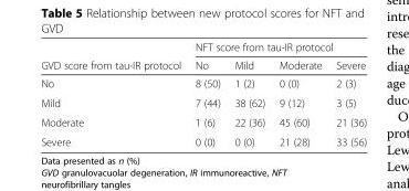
<table><thead><tr><td rowspan="2">GVD score from tau-IR protocol</td><td colspan="4">NFT score from tau-IR protocol</td></tr><tr><td>No</td><td>Mild</td><td>Moderate</td><td>Severe</td></tr></thead><tbody><tr><td>No</td><td>8 (50)</td><td>1 (2)</td><td>0 (0)</td><td>2 (3)</td></tr><tr><td>Mild</td><td>7 (44)</td><td>38 (62)</td><td>9 (12)</td><td>3 (5)</td></tr><tr><td>Moderate</td><td>1 (6)</td><td>22 (36)</td><td>45 (60)</td><td>21 (36)</td></tr><tr><td>Severe</td><td>0 (0)</td><td>0 (0)</td><td>21 (28)</td><td>33 (56)</td></tr></tbody></table>